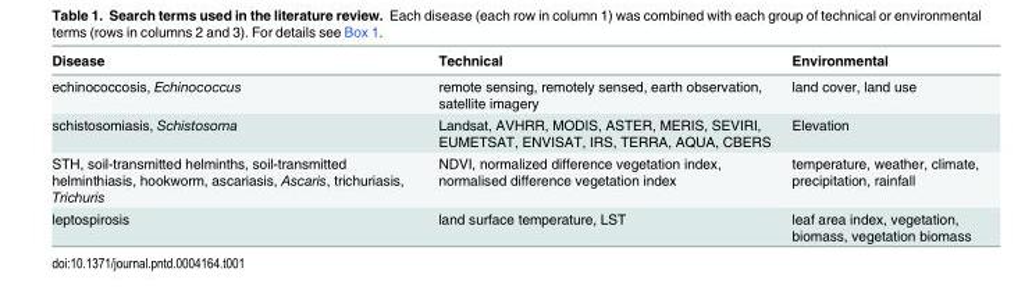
<table><thead><tr><td>Disease</td><td>Technical</td><td>Environmental</td></tr></thead><tbody><tr><td>echinococcosis, Echinococcus</td><td>remote sensing, remotely sensed, earth observation, satellite imagery</td><td>land cover, land use</td></tr><tr><td>schistosomiasis, Schistosoma</td><td>Landsat, AVHRR, MODIS, ASTER, MERIS, SEVIRI, EUMETSAT, ENVISAT, IRS, TERRA, AQUA, CBERS</td><td>Elevation</td></tr><tr><td>STH, soil-transmitted helminths, soil-transmitted helminthiasis, hookworm, ascariasis, Ascaris, trichuriasis, Trichuris</td><td>NDVI, normalized difference vegetation index, normalised difference vegetation index</td><td>temperature, weather, climate, precipitation, rainfall</td></tr><tr><td>leptospirosis</td><td>land surface temperature, LST</td><td>leaf area index, vegetation, biomass, vegetation biomass</td></tr></tbody></table>